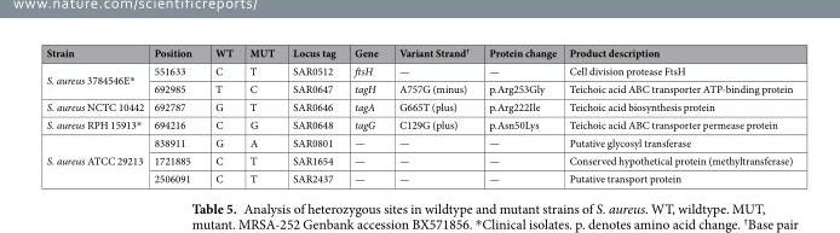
<table><thead><tr><td>Strain</td><td>Position</td><td>WT</td><td>MUT</td><td>Locus tag</td><td>Gene</td><td>Variant Strand<sup>†</sup></td><td>Protein change</td><td>Product description</td></tr></thead><tbody><tr><td rowspan="2">S. aureus 3784546E*</td><td>551633</td><td>C</td><td>T</td><td>SAR0512</td><td>ftsH</td><td>—</td><td>—</td><td>Cell division protease FtsH</td></tr><tr><td>692985</td><td>T</td><td>C</td><td>SAR0647</td><td>tagH</td><td>A757G (minus)</td><td>p.Arg253Gly</td><td>Teichoic acid ABC transporter ATP-binding protein</td></tr><tr><td>S. aureus NCTC 10442</td><td>692787</td><td>G</td><td>T</td><td>SAR0646</td><td>tagA</td><td>G665T (plus)</td><td>p.Arg222Ile</td><td>Teichoic acid biosynthesis protein</td></tr><tr><td>S. aureus RPH 15913*</td><td>694216</td><td>C</td><td>G</td><td>SAR0648</td><td>tagG</td><td>C129G (plus)</td><td>p.Asn50Lys</td><td>Teichoic acid ABC transporter permease protein</td></tr><tr><td rowspan="3">S. aureus ATCC 29213</td><td>838911</td><td>G</td><td>A</td><td>SAR0801</td><td>—</td><td>—</td><td>—</td><td>Putative glycosyl transferase</td></tr><tr><td>1721885</td><td>C</td><td>T</td><td>SAR1654</td><td>—</td><td>—</td><td>—</td><td>Conserved hypothetical protein (methyltransferase)</td></tr><tr><td>2506091</td><td>C</td><td>T</td><td>SAR2437</td><td>—</td><td>—</td><td>—</td><td>Putative transport protein</td></tr></tbody></table>